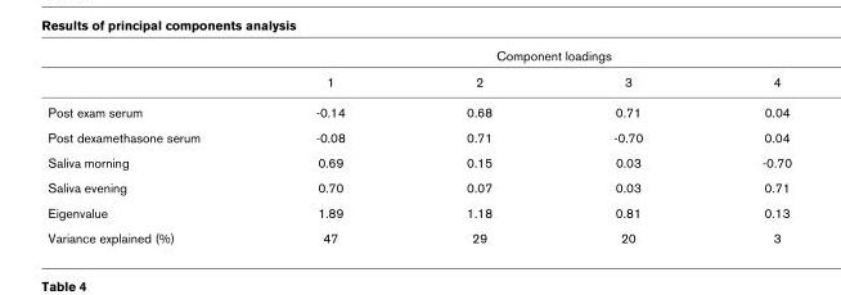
<table><thead><tr><td rowspan="2"></td><td colspan="4">Component loadings</td></tr><tr><td>1</td><td>2</td><td>3</td><td>4</td></tr></thead><tbody><tr><td>Post exam serum</td><td>-0.14</td><td>0.68</td><td>0.71</td><td>0.04</td></tr><tr><td>Post dexamethasone serum</td><td>-0.08</td><td>0.71</td><td>-0.70</td><td>0.04</td></tr><tr><td>Saliva morning</td><td>0.69</td><td>0.15</td><td>0.03</td><td>-0.70</td></tr><tr><td>Saliva evening</td><td>0.70</td><td>0.07</td><td>0.03</td><td>0.71</td></tr><tr><td>Eigenvalue</td><td>1.89</td><td>1.18</td><td>0.81</td><td>0.13</td></tr><tr><td>Variance explained (%)</td><td>47</td><td>29</td><td>20</td><td>3</td></tr></tbody></table>